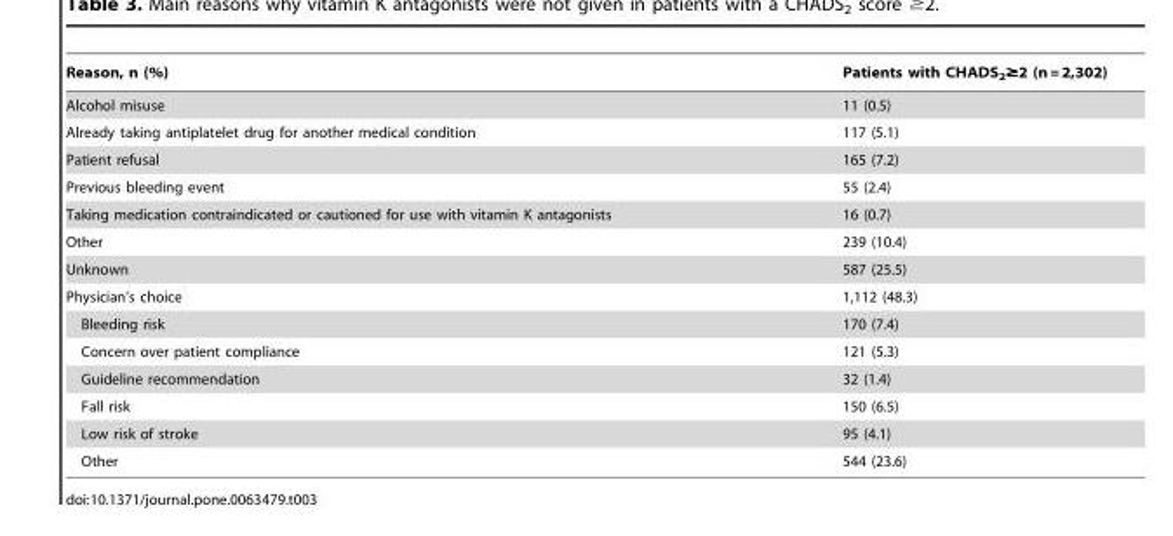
<table><thead><tr><td>Reason, n (%)</td><td>Patients with CHADS<sub>2</sub>≥2 (n = 2,302)</td></tr></thead><tbody><tr><td>Alcohol misuse</td><td>11 (0.5)</td></tr><tr><td>Already taking antiplatelet drug for another medical condition</td><td>117 (5.1)</td></tr><tr><td>Patient refusal</td><td>165 (7.2)</td></tr><tr><td>Previous bleeding event</td><td>55 (2.4)</td></tr><tr><td>Taking medication contraindicated or cautioned for use with vitamin K antagonists</td><td>16 (0.7)</td></tr><tr><td>Other</td><td>239 (10.4)</td></tr><tr><td>Unknown</td><td>587 (25.5)</td></tr><tr><td>Physician’s choice</td><td>1,112 (48.3)</td></tr><tr><td>Bleeding risk</td><td>170 (7.4)</td></tr><tr><td>Concern over patient compliance</td><td>121 (5.3)</td></tr><tr><td>Guideline recommendation</td><td>32 (1.4)</td></tr><tr><td>Fall risk</td><td>150 (6.5)</td></tr><tr><td>Low risk of stroke</td><td>95 (4.1)</td></tr><tr><td>Other</td><td>544 (23.6)</td></tr></tbody></table>